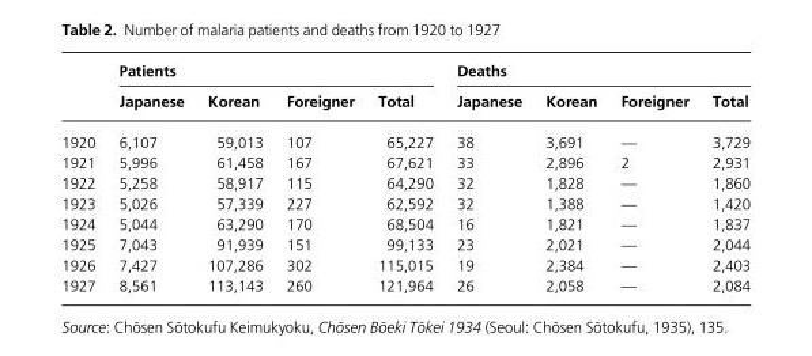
<table><thead><tr><td rowspan="2"></td><td colspan="4">Patients</td><td colspan="4">Deaths</td></tr><tr><td>Japanese</td><td>Korean</td><td>Foreigner</td><td>Total</td><td>Japanese</td><td>Korean</td><td>Foreigner</td><td>Total</td></tr></thead><tbody><tr><td>1920</td><td>6,107</td><td>59,013</td><td>107</td><td>65,227</td><td>38</td><td>3,691</td><td>—</td><td>3,729</td></tr><tr><td>1921</td><td>5,996</td><td>61,458</td><td>167</td><td>67,621</td><td>33</td><td>2,896</td><td>2</td><td>2,931</td></tr><tr><td>1922</td><td>5,258</td><td>58,917</td><td>115</td><td>64,290</td><td>32</td><td>1,828</td><td>—</td><td>1,860</td></tr><tr><td>1923</td><td>5,026</td><td>57,339</td><td>227</td><td>62,592</td><td>32</td><td>1,388</td><td>—</td><td>1,420</td></tr><tr><td>1924</td><td>5,044</td><td>63,290</td><td>170</td><td>68,504</td><td>16</td><td>1,821</td><td>—</td><td>1,837</td></tr><tr><td>1925</td><td>7,043</td><td>91,939</td><td>151</td><td>99,133</td><td>23</td><td>2,021</td><td>—</td><td>2,044</td></tr><tr><td>1926</td><td>7,427</td><td>107,286</td><td>302</td><td>115,015</td><td>19</td><td>2,384</td><td>—</td><td>2,403</td></tr><tr><td>1927</td><td>8,561</td><td>113,143</td><td>260</td><td>121,964</td><td>26</td><td>2,058</td><td>—</td><td>2,084</td></tr></tbody></table>